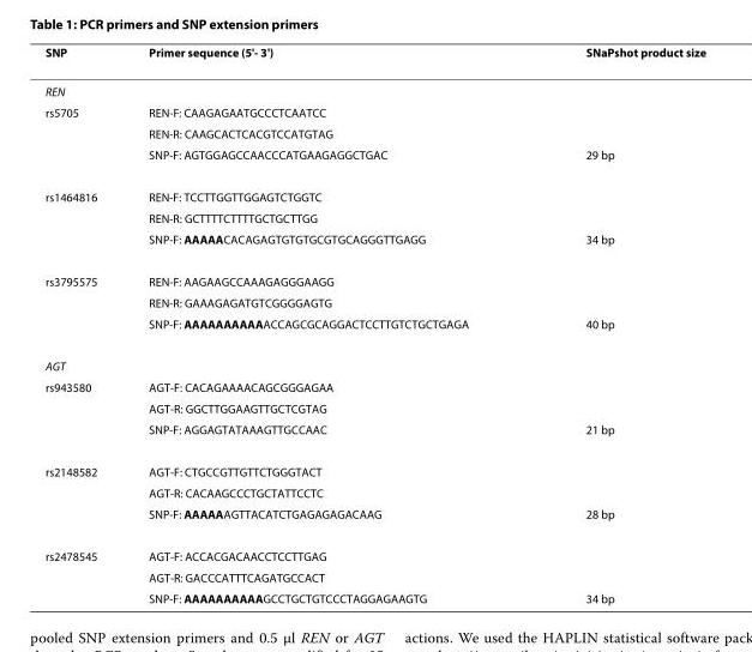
<table><thead><tr><td>SNP</td><td>Primer sequence (5&#x27;- 3&#x27;)</td><td>SNaPshot product size</td></tr></thead><tbody><tr><td colspan="3">REN</td></tr><tr><td rowspan="3">rs5705</td><td>REN-F: CAAGAGAATGCCCTCAATCC</td><td></td></tr><tr><td>REN-R: CAAGCACTCACGTCCATGTAG</td><td></td></tr><tr><td>SNP-F: AGTGGAGCCAACCCATGAAGAGGCTGAC</td><td>29 bp</td></tr><tr><td rowspan="3">rs1464816</td><td>REN-F: TCCTTGGTTGGAGTCTGGTC</td><td></td></tr><tr><td>REN-R: GCTTTTCTTTTGCTGCTTGG</td><td></td></tr><tr><td>SNP-F: AAAAACACAGAGTGTGTGCGTGCAGGGTTGAGG</td><td>34 bp</td></tr><tr><td rowspan="3">rs3795575</td><td>REN-F: AAGAAGCCAAAGAGGGAAGG</td><td></td></tr><tr><td>REN-R: GAAAGAGATGTCGGGGAGTG</td><td></td></tr><tr><td>SNP-F: AAAAAAAAAAACCAGCGCAGGACTCCTTGTCTGCTGAGA</td><td>40 bp</td></tr><tr><td colspan="3">AGT</td></tr><tr><td rowspan="3">rs943580</td><td>AGT-F: CACAGAAAACAGCGGGAGAA</td><td></td></tr><tr><td>AGT-R: GGCTTGGAAGTTGCTCGTAG</td><td></td></tr><tr><td>SNP-F: AGGAGTATAAAGTTGCCAAC</td><td>21 bp</td></tr><tr><td rowspan="3">rs2148582</td><td>AGT-F: CTGCCGTTGTTCTGGGTACT</td><td></td></tr><tr><td>AGT-R: CACAAGCCCTGCTATTCCTC</td><td></td></tr><tr><td>SNP-F: AAAAAAGTTACATCTGAGAGAGACAAG</td><td>28 bp</td></tr><tr><td rowspan="3">rs2478545</td><td>AGT-F: ACCACGACAACCTCCTTGAG</td><td></td></tr><tr><td>AGT-R: GACCCATTTCAGATGCCACT</td><td></td></tr><tr><td>SNP-F: AAAAAAAAAAGCCTGCTGTCCCTAGGAGAAGTG</td><td>34 bp</td></tr></tbody></table>